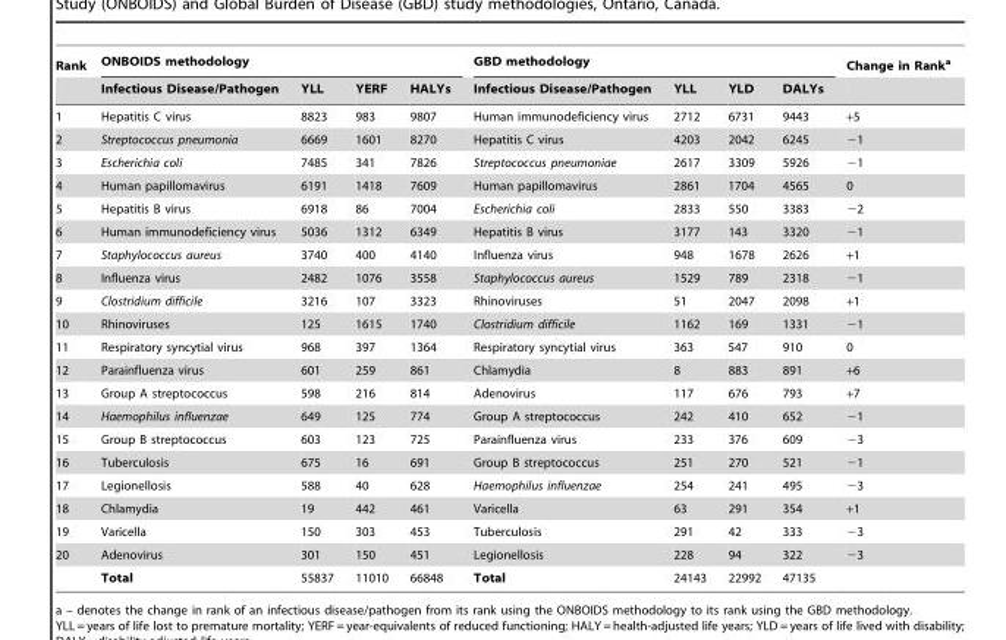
<table><thead><tr><td rowspan="2">Rank</td><td colspan="4">ONBOIDS methodology</td><td colspan="4">GBD methodology</td><td rowspan="2">Change in Rank<sup>a</sup></td></tr><tr><td>Infectious Disease/Pathogen</td><td>YLL</td><td>YERF</td><td>HALYs</td><td>Infectious Disease/Pathogen</td><td>YLL</td><td>YLD</td><td>DALYs</td></tr></thead><tbody><tr><td>1</td><td>Hepatitis C virus</td><td>8823</td><td>983</td><td>9807</td><td>Human immunodeficiency virus</td><td>2712</td><td>6731</td><td>9443</td><td>+5</td></tr><tr><td>2</td><td>Streptococcus pneumonia</td><td>6669</td><td>1601</td><td>8270</td><td>Hepatitis C virus</td><td>4203</td><td>2042</td><td>6245</td><td>−1</td></tr><tr><td>3</td><td>Escherichia coli</td><td>7485</td><td>341</td><td>7826</td><td>Streptococcus pneumoniae</td><td>2617</td><td>3309</td><td>5926</td><td>−1</td></tr><tr><td>4</td><td>Human papillomavirus</td><td>6191</td><td>1418</td><td>7609</td><td>Human papillomavirus</td><td>2861</td><td>1704</td><td>4565</td><td>0</td></tr><tr><td>5</td><td>Hepatitis B virus</td><td>6918</td><td>86</td><td>7004</td><td>Escherichia coli</td><td>2833</td><td>550</td><td>3383</td><td>−2</td></tr><tr><td>6</td><td>Human immunodeficiency virus</td><td>5036</td><td>1312</td><td>6349</td><td>Hepatitis B virus</td><td>3177</td><td>143</td><td>3320</td><td>−1</td></tr><tr><td>7</td><td>Staphylococcus aureus</td><td>3740</td><td>400</td><td>4140</td><td>Influenza virus</td><td>948</td><td>1678</td><td>2626</td><td>+1</td></tr><tr><td>8</td><td>Influenza virus</td><td>2482</td><td>1076</td><td>3558</td><td>Staphylococcus aureus</td><td>1529</td><td>789</td><td>2318</td><td>−1</td></tr><tr><td>9</td><td>Clostridium difficile</td><td>3216</td><td>107</td><td>3323</td><td>Rhinoviruses</td><td>51</td><td>2047</td><td>2098</td><td>+1</td></tr><tr><td>10</td><td>Rhinoviruses</td><td>125</td><td>1615</td><td>1740</td><td>Clostridium difficile</td><td>1162</td><td>169</td><td>1331</td><td>−1</td></tr><tr><td>11</td><td>Respiratory syncytial virus</td><td>968</td><td>397</td><td>1364</td><td>Respiratory syncytial virus</td><td>363</td><td>547</td><td>910</td><td>0</td></tr><tr><td>12</td><td>Parainfluenza virus</td><td>601</td><td>259</td><td>861</td><td>Chlamydia</td><td>8</td><td>883</td><td>891</td><td>+6</td></tr><tr><td>13</td><td>Group A streptococcus</td><td>598</td><td>216</td><td>814</td><td>Adenovirus</td><td>117</td><td>676</td><td>793</td><td>+7</td></tr><tr><td>14</td><td>Haemophilus influenzae</td><td>649</td><td>125</td><td>774</td><td>Group A streptococcus</td><td>242</td><td>410</td><td>652</td><td>−1</td></tr><tr><td>15</td><td>Group B streptococcus</td><td>603</td><td>123</td><td>725</td><td>Parainfluenza virus</td><td>233</td><td>376</td><td>609</td><td>−3</td></tr><tr><td>16</td><td>Tuberculosis</td><td>675</td><td>16</td><td>691</td><td>Group B streptococcus</td><td>251</td><td>270</td><td>521</td><td>−1</td></tr><tr><td>17</td><td>Legionellosis</td><td>588</td><td>40</td><td>628</td><td>Haemophilus influenzae</td><td>254</td><td>241</td><td>495</td><td>−3</td></tr><tr><td>18</td><td>Chlamydia</td><td>19</td><td>442</td><td>461</td><td>Varicella</td><td>63</td><td>291</td><td>354</td><td>+1</td></tr><tr><td>19</td><td>Varicella</td><td>150</td><td>303</td><td>453</td><td>Tuberculosis</td><td>291</td><td>42</td><td>333</td><td>−3</td></tr><tr><td rowspan="2">20</td><td>Adenovirus</td><td>301</td><td>150</td><td>451</td><td>Legionellosis</td><td>228</td><td>94</td><td>322</td><td>−3</td></tr><tr><td>Total</td><td>55837</td><td>11010</td><td>66848</td><td>Total</td><td>24143</td><td>22992</td><td>47135</td><td></td></tr></tbody></table>